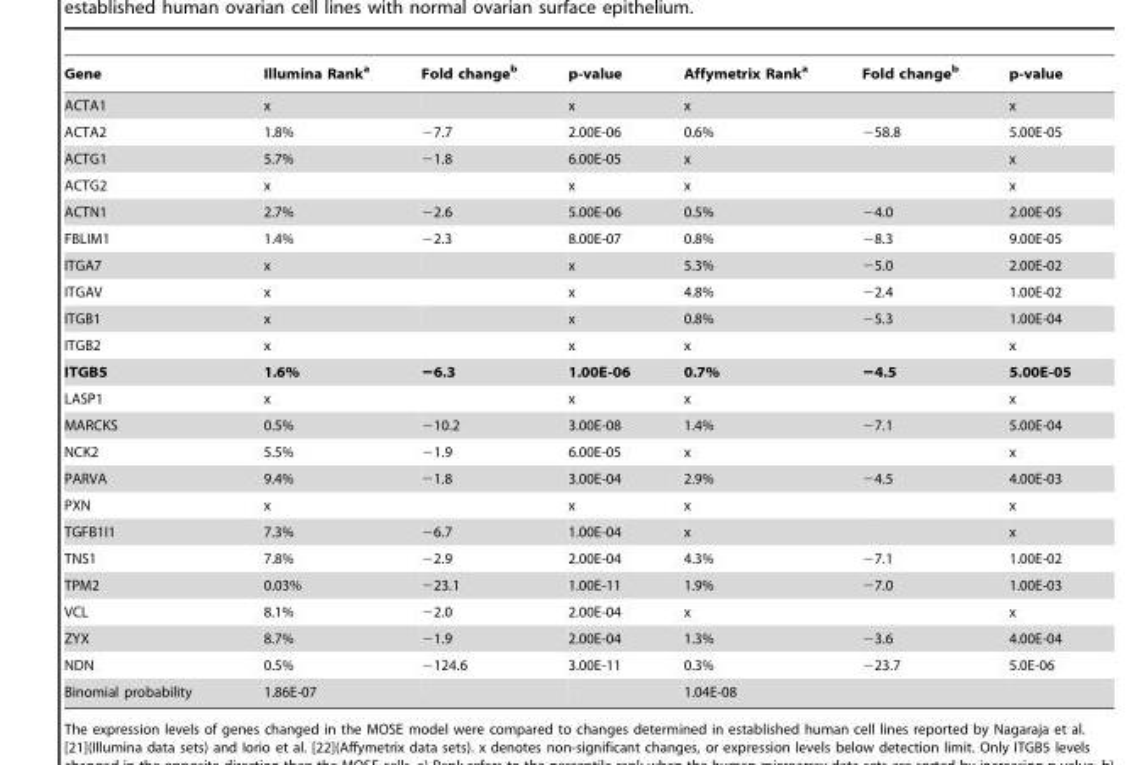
<table><thead><tr><td>Gene</td><td>Illumina Rank<sup>a</sup></td><td>Fold change<sup>b</sup></td><td>p-value</td><td>Affymetrix Rank<sup>a</sup></td><td>Fold change<sup>b</sup></td><td>p-value</td></tr></thead><tbody><tr><td>ACTA1</td><td>x</td><td></td><td>x</td><td>x</td><td></td><td>x</td></tr><tr><td>ACTA2</td><td>1.8%</td><td>−7.7</td><td>2.00E-06</td><td>0.6%</td><td>−58.8</td><td>5.00E-05</td></tr><tr><td>ACTG1</td><td>5.7%</td><td>−1.8</td><td>6.00E-05</td><td>x</td><td></td><td>x</td></tr><tr><td>ACTG2</td><td>x</td><td></td><td>x</td><td>x</td><td></td><td>x</td></tr><tr><td>ACTN1</td><td>2.7%</td><td>−2.6</td><td>5.00E-06</td><td>0.5%</td><td>−4.0</td><td>2.00E-05</td></tr><tr><td>FBLIM1</td><td>1.4%</td><td>−2.3</td><td>8.00E-07</td><td>0.8%</td><td>−8.3</td><td>9.00E-05</td></tr><tr><td>ITGA7</td><td>x</td><td></td><td>x</td><td>5.3%</td><td>−5.0</td><td>2.00E-02</td></tr><tr><td>ITGAV</td><td>x</td><td></td><td>x</td><td>4.8%</td><td>−2.4</td><td>1.00E-02</td></tr><tr><td>ITGB1</td><td>x</td><td></td><td>x</td><td>0.8%</td><td>−5.3</td><td>1.00E-04</td></tr><tr><td>ITGB2</td><td>x</td><td></td><td>x</td><td>x</td><td></td><td>x</td></tr><tr><td>ITGB5</td><td>1.6%</td><td>−6.3</td><td>1.00E-06</td><td>0.7%</td><td>−4.5</td><td>5.00E-05</td></tr><tr><td>LASP1</td><td>x</td><td></td><td>x</td><td>x</td><td></td><td>x</td></tr><tr><td>MARCKS</td><td>0.5%</td><td>−10.2</td><td>3.00E-08</td><td>1.4%</td><td>−7.1</td><td>5.00E-04</td></tr><tr><td>NCK2</td><td>5.5%</td><td>−1.9</td><td>6.00E-05</td><td>x</td><td></td><td>x</td></tr><tr><td>PARVA</td><td>9.4%</td><td>−1.8</td><td>3.00E-04</td><td>2.9%</td><td>−4.5</td><td>4.00E-03</td></tr><tr><td>PXN</td><td>x</td><td></td><td>x</td><td>x</td><td></td><td>x</td></tr><tr><td>TGFB1I1</td><td>7.3%</td><td>−6.7</td><td>1.00E-04</td><td>x</td><td></td><td>x</td></tr><tr><td>TNS1</td><td>7.8%</td><td>−2.9</td><td>2.00E-04</td><td>4.3%</td><td>−7.1</td><td>1.00E-02</td></tr><tr><td>TPM2</td><td>0.03%</td><td>−23.1</td><td>1.00E-11</td><td>1.9%</td><td>−7.0</td><td>1.00E-03</td></tr><tr><td>VCL</td><td>8.1%</td><td>−2.0</td><td>2.00E-04</td><td>x</td><td></td><td>x</td></tr><tr><td>ZYX</td><td>8.7%</td><td>−1.9</td><td>2.00E-04</td><td>1.3%</td><td>−3.6</td><td>4.00E-04</td></tr><tr><td>NDN</td><td>0.5%</td><td>−124.6</td><td>3.00E-11</td><td>0.3%</td><td>−23.7</td><td>5.0E-06</td></tr><tr><td>Binomial probability</td><td>1.86E-07</td><td></td><td></td><td>1.04E-08</td><td></td><td></td></tr></tbody></table>